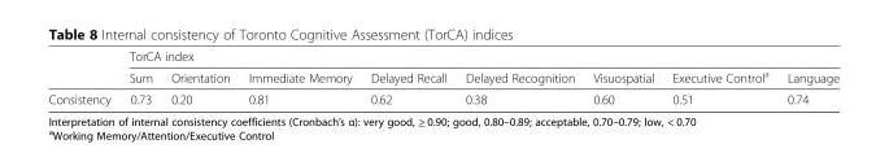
<table><thead><tr><td rowspan="2"></td><td colspan="8">TorCA index</td></tr><tr><td>Sum</td><td>Orientation</td><td>Immediate Memory</td><td>Delayed Recall</td><td>Delayed Recognition</td><td>Visuospatial</td><td>Executive Control<sup>a</sup></td><td>Language</td></tr></thead><tbody><tr><td>Consistency</td><td>0.73</td><td>0.20</td><td>0.81</td><td>0.62</td><td>0.38</td><td>0.60</td><td>0.51</td><td>0.74</td></tr></tbody></table>